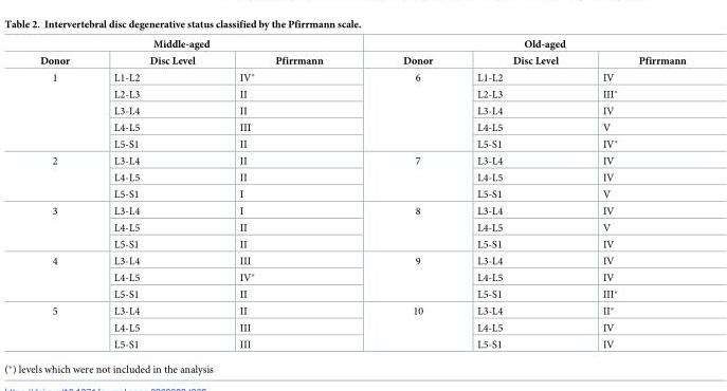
<table><thead><tr><td colspan="3">Middle-aged</td><td colspan="3">Old-aged</td></tr><tr><td>Donor</td><td>Disc Level</td><td>Pfirrmann</td><td>Donor</td><td>Disc Level</td><td>Pfirrmann</td></tr></thead><tbody><tr><td rowspan="5">1</td><td>L1-L2</td><td>IV*</td><td rowspan="5">6</td><td>L1-L2</td><td>IV</td></tr><tr><td>L2-L3</td><td>II</td><td>L2-L3</td><td>III*</td></tr><tr><td>L3-L4</td><td>II</td><td>L3-L4</td><td>IV</td></tr><tr><td>L4-L5</td><td>III</td><td>L4-L5</td><td>V</td></tr><tr><td>L5-S1</td><td>II</td><td>L5-S1</td><td>IV*</td></tr><tr><td rowspan="3">2</td><td>L3-L4</td><td>II</td><td rowspan="3">7</td><td>L3-L4</td><td>IV</td></tr><tr><td>L4-L5</td><td>II</td><td>L4-L5</td><td>IV</td></tr><tr><td>L5-S1</td><td>I</td><td>L5-S1</td><td>V</td></tr><tr><td rowspan="3">3</td><td>L3-L4</td><td>I</td><td rowspan="3">8</td><td>L3-L4</td><td>IV</td></tr><tr><td>L4-L5</td><td>II</td><td>L4-L5</td><td>V</td></tr><tr><td>L5-S1</td><td>II</td><td>L5-S1</td><td>IV</td></tr><tr><td rowspan="3">4</td><td>L3-L4</td><td>III</td><td rowspan="3">9</td><td>L3-L4</td><td>IV</td></tr><tr><td>L4-L5</td><td>IV*</td><td>L4-L5</td><td>IV</td></tr><tr><td>L5-S1</td><td>II</td><td>L5-S1</td><td>III*</td></tr><tr><td rowspan="3">5</td><td>L3-L4</td><td>II</td><td rowspan="3">10</td><td>L3-L4</td><td>II*</td></tr><tr><td>L4-L5</td><td>III</td><td>L4-L5</td><td>IV</td></tr><tr><td>L5-S1</td><td>III</td><td>L5-S1</td><td>IV</td></tr></tbody></table>